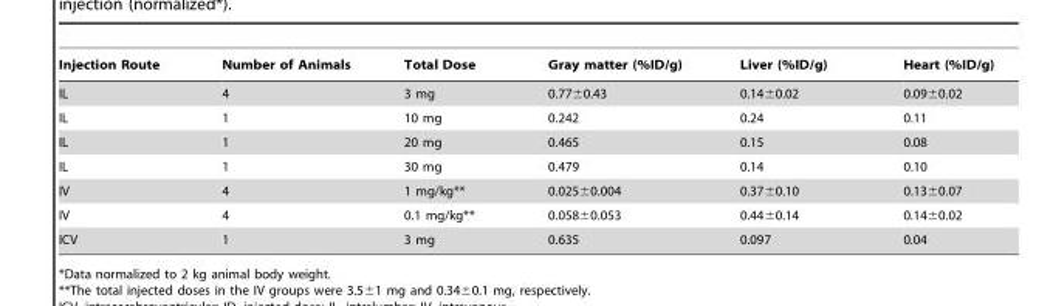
<table><thead><tr><td>Injection Route</td><td>Number of Animals</td><td>Total Dose</td><td>Gray matter (%ID/g)</td><td>Liver (%ID/g)</td><td>Heart (%ID/g)</td></tr></thead><tbody><tr><td>IL</td><td>4</td><td>3 mg</td><td>0.77±0.43</td><td>0.14±0.02</td><td>0.09±0.02</td></tr><tr><td>IL</td><td>1</td><td>10 mg</td><td>0.242</td><td>0.24</td><td>0.11</td></tr><tr><td>IL</td><td>1</td><td>20 mg</td><td>0.465</td><td>0.15</td><td>0.08</td></tr><tr><td>IL</td><td>1</td><td>30 mg</td><td>0.479</td><td>0.14</td><td>0.10</td></tr><tr><td>IV</td><td>4</td><td>1 mg/kg**</td><td>0.025±0.004</td><td>0.37±0.10</td><td>0.13±0.07</td></tr><tr><td>IV</td><td>4</td><td>0.1 mg/kg**</td><td>0.058±0.053</td><td>0.44±0.14</td><td>0.14±0.02</td></tr><tr><td>ICV</td><td>1</td><td>3 mg</td><td>0.635</td><td>0.097</td><td>0.04</td></tr></tbody></table>